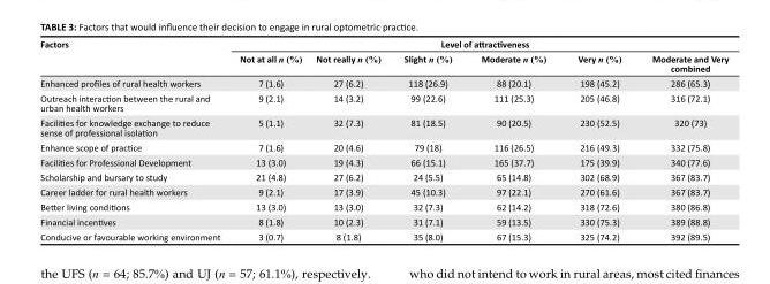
<table><thead><tr><td rowspan="2">Factors</td><td colspan="6">Level of attractiveness</td></tr><tr><td>Not at all n (%)</td><td>Not really n (%)</td><td>Slight n (%)</td><td>Moderate n (%)</td><td>Very n (%)</td><td>Moderate and Very combined</td></tr></thead><tbody><tr><td>Enhanced profiles of rural health workers</td><td>7 (1.6)</td><td>27 (6.2)</td><td>118 (26.9)</td><td>88 (20.1)</td><td>198 (45.2)</td><td>286 (65.3)</td></tr><tr><td>Outreach interaction between the rural and urban health workers</td><td>9 (2.1)</td><td>14 (3.2)</td><td>99 (22.6)</td><td>111 (25.3)</td><td>205 (46.8)</td><td>316 (72.1)</td></tr><tr><td>Facilities for knowledge exchange to reduce sense of professional isolation</td><td>5 (1.1)</td><td>32 (7.3)</td><td>81 (18.5)</td><td>90 (20.5)</td><td>230 (52.5)</td><td>320 (73)</td></tr><tr><td>Enhance scope of practice</td><td>7 (1.6)</td><td>20 (4.6)</td><td>79 (18)</td><td>116 (26.5)</td><td>216 (49.3)</td><td>332 (75.8)</td></tr><tr><td>Facilities for Professional Development</td><td>13 (3.0)</td><td>19 (4.3)</td><td>66 (15.1)</td><td>165 (37.7)</td><td>175 (39.9)</td><td>340 (77.6)</td></tr><tr><td>Scholarship and bursary to study</td><td>21 (4.8)</td><td>27 (6.2)</td><td>24 (5.5)</td><td>65 (14.8)</td><td>302 (68.9)</td><td>367 (83.7)</td></tr><tr><td>Career ladder for rural health workers</td><td>9 (2.1)</td><td>17 (3.9)</td><td>45 (10.3)</td><td>97 (22.1)</td><td>270 (61.6)</td><td>367 (83.7)</td></tr><tr><td>Better living conditions</td><td>13 (3.0)</td><td>13 (3.0)</td><td>32 (7.3)</td><td>62 (14.2)</td><td>318 (72.6)</td><td>380 (86.8)</td></tr><tr><td>Financial incentives</td><td>8 (1.8)</td><td>10 (2.3)</td><td>31 (7.1)</td><td>59 (13.5)</td><td>330 (75.3)</td><td>389 (88.8)</td></tr><tr><td>Conducive or favourable working environment</td><td>3 (0.7)</td><td>8 (1.8)</td><td>35 (8.0)</td><td>67 (15.3)</td><td>325 (74.2)</td><td>392 (89.5)</td></tr></tbody></table>